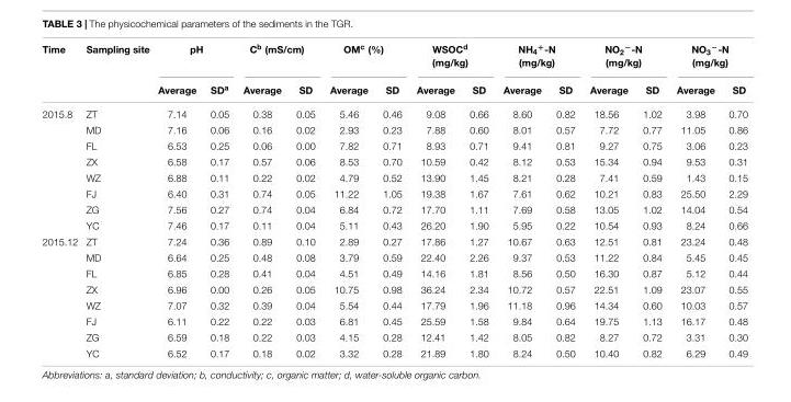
<table><thead><tr><td rowspan="2">Time</td><td rowspan="2">Sampling site</td><td colspan="2">pH</td><td colspan="2">C<sup>b</sup> (mS/cm)</td><td colspan="2">OM<sup>c</sup> (%)</td><td colspan="2">WSOC<sup>d</sup> (mg/kg)</td><td colspan="2">NH<sub>4</sub><sup>+</sup>-N (mg/kg)</td><td colspan="2">NO<sub>2</sub><sup>−</sup>-N (mg/kg)</td><td colspan="2">NO<sub>3</sub><sup>−</sup>-N (mg/kg)</td></tr><tr><td>Average</td><td>SD<sup>a</sup></td><td>Average</td><td>SD</td><td>Average</td><td>SD</td><td>Average</td><td>SD</td><td>Average</td><td>SD</td><td>Average</td><td>SD</td><td>Average</td><td>SD</td></tr></thead><tbody><tr><td rowspan="8">2015.8</td><td>ZT</td><td>7.14</td><td>0.05</td><td>0.38</td><td>0.05</td><td>5.46</td><td>0.46</td><td>9.08</td><td>0.66</td><td>8.60</td><td>0.82</td><td>18.56</td><td>1.02</td><td>3.98</td><td>0.70</td></tr><tr><td>MD</td><td>7.16</td><td>0.06</td><td>0.16</td><td>0.02</td><td>2.93</td><td>0.23</td><td>7.88</td><td>0.60</td><td>8.01</td><td>0.57</td><td>7.72</td><td>0.77</td><td>11.05</td><td>0.86</td></tr><tr><td>FL</td><td>6.53</td><td>0.25</td><td>0.06</td><td>0.00</td><td>7.82</td><td>0.71</td><td>8.93</td><td>0.71</td><td>9.41</td><td>0.81</td><td>9.27</td><td>0.75</td><td>3.06</td><td>0.23</td></tr><tr><td>ZX</td><td>6.58</td><td>0.17</td><td>0.57</td><td>0.06</td><td>8.53</td><td>0.70</td><td>10.59</td><td>0.42</td><td>8.12</td><td>0.53</td><td>15.34</td><td>0.94</td><td>9.53</td><td>0.31</td></tr><tr><td>WZ</td><td>6.88</td><td>0.11</td><td>0.22</td><td>0.02</td><td>4.79</td><td>0.52</td><td>13.90</td><td>1.45</td><td>8.21</td><td>0.28</td><td>7.41</td><td>0.59</td><td>1.43</td><td>0.15</td></tr><tr><td>FJ</td><td>6.40</td><td>0.31</td><td>0.74</td><td>0.05</td><td>11.22</td><td>1.05</td><td>19.38</td><td>1.67</td><td>7.61</td><td>0.62</td><td>10.21</td><td>0.83</td><td>25.50</td><td>2.29</td></tr><tr><td>ZG</td><td>7.56</td><td>0.27</td><td>0.74</td><td>0.04</td><td>6.84</td><td>0.72</td><td>17.70</td><td>1.11</td><td>7.69</td><td>0.58</td><td>13.05</td><td>1.02</td><td>14.04</td><td>0.54</td></tr><tr><td>YC</td><td>7.46</td><td>0.17</td><td>0.11</td><td>0.04</td><td>5.11</td><td>0.43</td><td>26.20</td><td>1.90</td><td>5.95</td><td>0.22</td><td>10.54</td><td>0.93</td><td>8.24</td><td>0.66</td></tr><tr><td rowspan="8">2015.12</td><td>ZT</td><td>7.24</td><td>0.36</td><td>0.89</td><td>0.10</td><td>2.89</td><td>0.27</td><td>17.86</td><td>1.27</td><td>10.67</td><td>0.63</td><td>12.51</td><td>0.81</td><td>23.24</td><td>0.48</td></tr><tr><td>MD</td><td>6.64</td><td>0.25</td><td>0.48</td><td>0.08</td><td>3.79</td><td>0.59</td><td>22.40</td><td>2.26</td><td>9.37</td><td>0.53</td><td>11.22</td><td>0.84</td><td>5.45</td><td>0.45</td></tr><tr><td>FL</td><td>6.85</td><td>0.28</td><td>0.41</td><td>0.04</td><td>4.51</td><td>0.49</td><td>14.16</td><td>1.81</td><td>8.56</td><td>0.50</td><td>16.30</td><td>0.87</td><td>5.12</td><td>0.44</td></tr><tr><td>ZX</td><td>6.96</td><td>0.00</td><td>0.26</td><td>0.05</td><td>10.75</td><td>0.98</td><td>36.24</td><td>2.34</td><td>10.72</td><td>0.57</td><td>22.51</td><td>1.09</td><td>23.07</td><td>0.55</td></tr><tr><td>WZ</td><td>7.07</td><td>0.32</td><td>0.39</td><td>0.04</td><td>5.54</td><td>0.44</td><td>17.79</td><td>1.96</td><td>11.18</td><td>0.96</td><td>14.34</td><td>0.60</td><td>10.03</td><td>0.57</td></tr><tr><td>FJ</td><td>6.11</td><td>0.22</td><td>0.22</td><td>0.03</td><td>6.81</td><td>0.45</td><td>25.59</td><td>1.58</td><td>9.84</td><td>0.64</td><td>19.75</td><td>1.13</td><td>16.17</td><td>0.48</td></tr><tr><td>ZG</td><td>6.59</td><td>0.18</td><td>0.22</td><td>0.03</td><td>4.15</td><td>0.28</td><td>12.41</td><td>1.42</td><td>8.05</td><td>0.82</td><td>8.27</td><td>0.72</td><td>3.31</td><td>0.30</td></tr><tr><td>YC</td><td>6.52</td><td>0.17</td><td>0.18</td><td>0.02</td><td>3.32</td><td>0.28</td><td>21.89</td><td>1.80</td><td>8.24</td><td>0.50</td><td>10.40</td><td>0.82</td><td>6.29</td><td>0.49</td></tr></tbody></table>